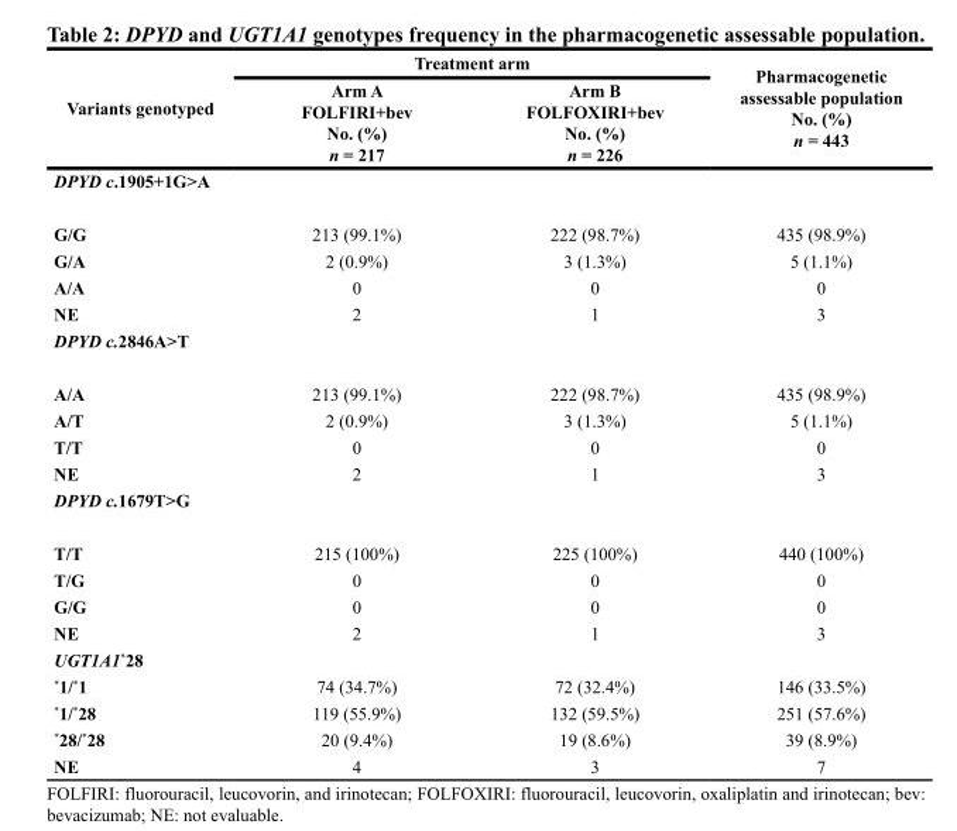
<table><thead><tr><td rowspan="2">Variants genotyped</td><td colspan="2">Treatment arm</td><td rowspan="2">Pharmacogenetic assessable population No. (%) n = 443</td></tr><tr><td>Arm A FOLFIRI+bev No. (%) n = 217</td><td>Arm B FOLFOXIRI+bev No. (%) n = 226</td></tr></thead><tbody><tr><td colspan="4">DPYD c.1905+1G&gt;A</td></tr><tr><td>G/G</td><td>213 (99.1%)</td><td>222 (98.7%)</td><td>435 (98.9%)</td></tr><tr><td>G/A</td><td>2 (0.9%)</td><td>3 (1.3%)</td><td>5 (1.1%)</td></tr><tr><td>A/A</td><td>0</td><td>0</td><td>0</td></tr><tr><td>NE</td><td>2</td><td>1</td><td>3</td></tr><tr><td colspan="4">DPYD c.2846A&gt;T</td></tr><tr><td>A/A</td><td>213 (99.1%)</td><td>222 (98.7%)</td><td>435 (98.9%)</td></tr><tr><td>A/T</td><td>2 (0.9%)</td><td>3 (1.3%)</td><td>5 (1.1%)</td></tr><tr><td>T/T</td><td>0</td><td>0</td><td>0</td></tr><tr><td>NE</td><td>2</td><td>1</td><td>3</td></tr><tr><td colspan="4">DPYD c.1679T&gt;G</td></tr><tr><td>T/T</td><td>215 (100%)</td><td>225 (100%)</td><td>440 (100%)</td></tr><tr><td>T/G</td><td>0</td><td>0</td><td>0</td></tr><tr><td>G/G</td><td>0</td><td>0</td><td>0</td></tr><tr><td>NE</td><td>2</td><td>1</td><td>3</td></tr><tr><td colspan="4">UGT1A1*28</td></tr><tr><td>*1/*1</td><td>74 (34.7%)</td><td>72 (32.4%)</td><td>146 (33.5%)</td></tr><tr><td>*1/*28</td><td>119 (55.9%)</td><td>132 (59.5%)</td><td>251 (57.6%)</td></tr><tr><td>*28/*28</td><td>20 (9.4%)</td><td>19 (8.6%)</td><td>39 (8.9%)</td></tr><tr><td>NE</td><td>4</td><td>3</td><td>7</td></tr></tbody></table>